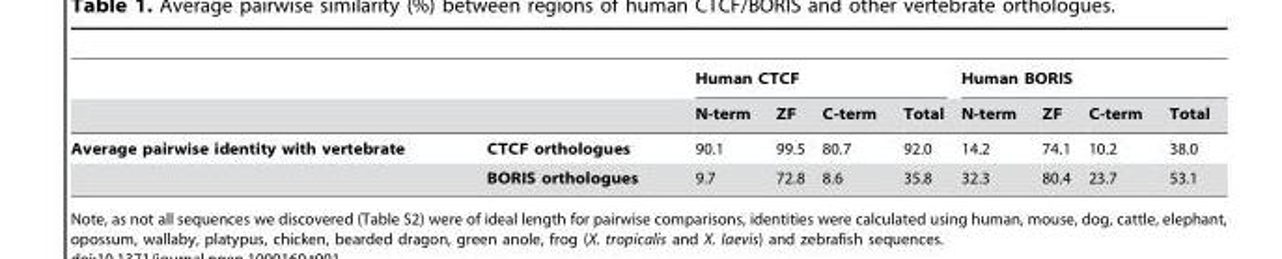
<table><thead><tr><td rowspan="2"></td><td rowspan="2"></td><td colspan="4">Human CTCF</td><td colspan="4">Human BORIS</td></tr><tr><td>N-term</td><td>ZF</td><td>C-term</td><td>Total</td><td>N-term</td><td>ZF</td><td>C-term</td><td>Total</td></tr></thead><tbody><tr><td rowspan="2">Average pairwise identity with vertebrate</td><td>CTCF orthologues</td><td>90.1</td><td>99.5</td><td>80.7</td><td>92.0</td><td>14.2</td><td>74.1</td><td>10.2</td><td>38.0</td></tr><tr><td>BORIS orthologues</td><td>9.7</td><td>72.8</td><td>8.6</td><td>35.8</td><td>32.3</td><td>80.4</td><td>23.7</td><td>53.1</td></tr></tbody></table>